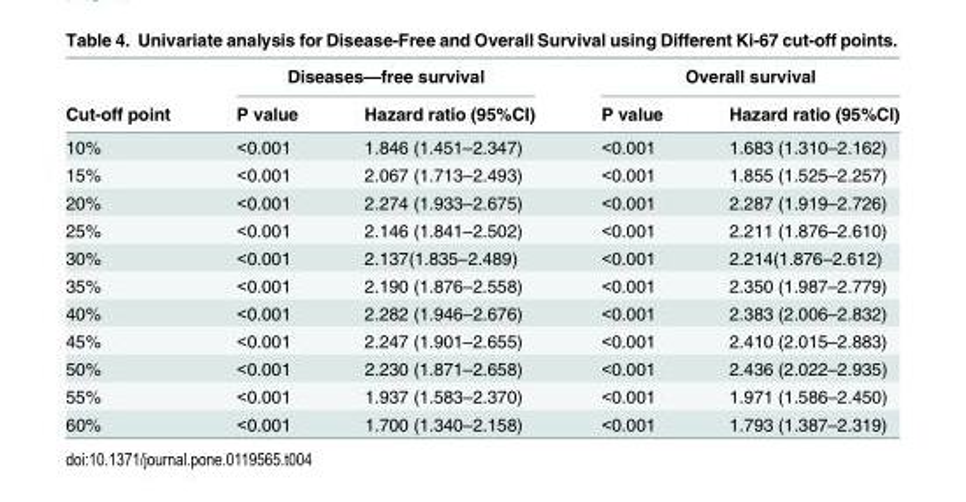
<table><thead><tr><td rowspan="2">Cut-off point</td><td colspan="2">Diseases—free survival</td><td colspan="2">Overall survival</td></tr><tr><td>P value</td><td>Hazard ratio (95%CI)</td><td>P value</td><td>Hazard ratio (95%CI)</td></tr></thead><tbody><tr><td>10%</td><td>&lt;0.001</td><td>1.846 (1.451–2.347)</td><td>&lt;0.001</td><td>1.683 (1.310–2.162)</td></tr><tr><td>15%</td><td>&lt;0.001</td><td>2.067 (1.713–2.493)</td><td>&lt;0.001</td><td>1.855 (1.525–2.257)</td></tr><tr><td>20%</td><td>&lt;0.001</td><td>2.274 (1.933–2.675)</td><td>&lt;0.001</td><td>2.287 (1.919–2.726)</td></tr><tr><td>25%</td><td>&lt;0.001</td><td>2.146 (1.841–2.502)</td><td>&lt;0.001</td><td>2.211 (1.876–2.610)</td></tr><tr><td>30%</td><td>&lt;0.001</td><td>2.137(1.835–2.489)</td><td>&lt;0.001</td><td>2.214(1.876–2.612)</td></tr><tr><td>35%</td><td>&lt;0.001</td><td>2.190 (1.876–2.558)</td><td>&lt;0.001</td><td>2.350 (1.987–2.779)</td></tr><tr><td>40%</td><td>&lt;0.001</td><td>2.282 (1.946–2.676)</td><td>&lt;0.001</td><td>2.383 (2.006–2.832)</td></tr><tr><td>45%</td><td>&lt;0.001</td><td>2.247 (1.901–2.655)</td><td>&lt;0.001</td><td>2.410 (2.015–2.883)</td></tr><tr><td>50%</td><td>&lt;0.001</td><td>2.230 (1.871–2.658)</td><td>&lt;0.001</td><td>2.436 (2.022–2.935)</td></tr><tr><td>55%</td><td>&lt;0.001</td><td>1.937 (1.583–2.370)</td><td>&lt;0.001</td><td>1.971 (1.586–2.450)</td></tr><tr><td>60%</td><td>&lt;0.001</td><td>1.700 (1.340–2.158)</td><td>&lt;0.001</td><td>1.793 (1.387–2.319)</td></tr></tbody></table>